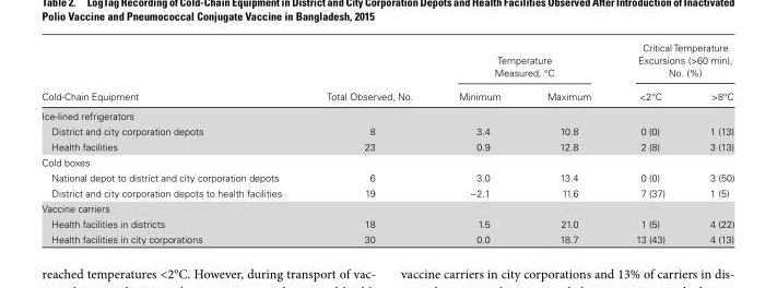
<table><thead><tr><td rowspan="2">Cold-Chain Equipment</td><td rowspan="2">Total Observed, No.</td><td colspan="2">Temperature Measured, °C</td><td colspan="2">Critical Temperature Excursions (&gt;60 min), No. (%)</td></tr><tr><td>Minimum</td><td>Maximum</td><td>&lt;2°C</td><td>&gt;8°C</td></tr></thead><tbody><tr><td colspan="6">Ice-lined refrigerators</td></tr><tr><td>District and city corporation depots</td><td>8</td><td>3.4</td><td>10.8</td><td>0 (0)</td><td>1 (13)</td></tr><tr><td>Health facilities</td><td>23</td><td>0.9</td><td>12.8</td><td>2 (8)</td><td>3 (13)</td></tr><tr><td colspan="6">Cold boxes</td></tr><tr><td>National depot to district and city corporation depots</td><td>6</td><td>3.0</td><td>13.4</td><td>0 (0)</td><td>3 (50)</td></tr><tr><td>District and city corporation depots to health facilities</td><td>19</td><td>−2.1</td><td>11.6</td><td>7 (37)</td><td>1 (5)</td></tr><tr><td colspan="6">Vaccine carriers</td></tr><tr><td>Health facilities in districts</td><td>18</td><td>1.5</td><td>21.0</td><td>1 (5)</td><td>4 (22)</td></tr><tr><td>Health facilities in city corporations</td><td>30</td><td>0.0</td><td>18.7</td><td>13 (43)</td><td>4 (13)</td></tr></tbody></table>